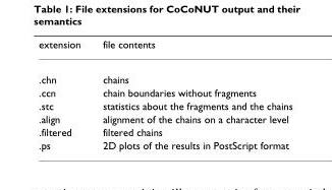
<table><thead><tr><td>extension</td><td>file contents</td></tr></thead><tbody><tr><td>.chn</td><td>chains</td></tr><tr><td>.ccn</td><td>chain boundaries without fragments</td></tr><tr><td>.stc</td><td>statistics about the fragments and the chains</td></tr><tr><td>.align</td><td>alignment of the chains on a character level</td></tr><tr><td>.filtered</td><td>filtered chains</td></tr><tr><td>.ps</td><td>2D plots of the results in PostScript format</td></tr></tbody></table>